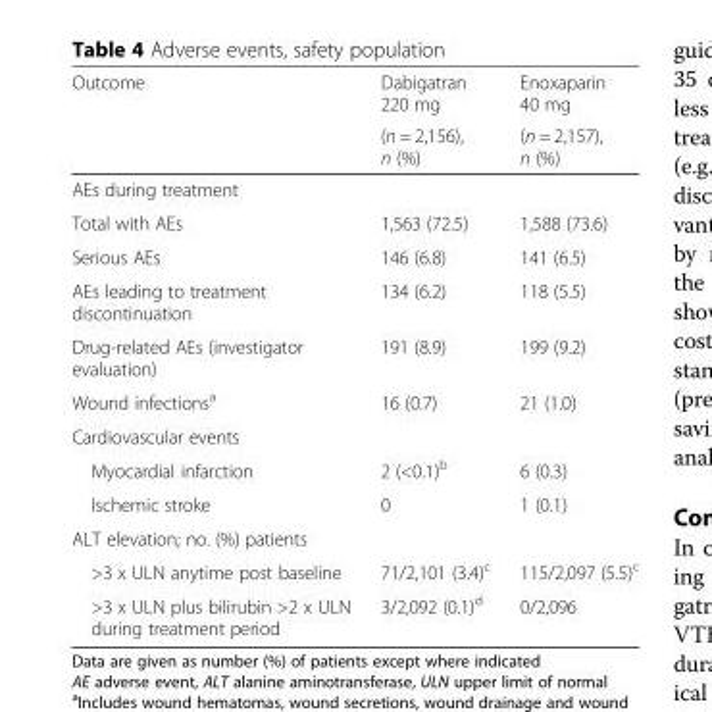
<table><thead><tr><td rowspan="2">Outcome</td><td rowspan="2">Dabigatran 220 mg (n = 2,156), n (%)</td><td rowspan="2">Enoxaparin 40 mg (n = 2,157), n (%)</td></tr><tr></tr></thead><tbody><tr><td colspan="3">AEs during treatment</td></tr><tr><td>Total with AEs</td><td>1,563 (72.5)</td><td>1,588 (73.6)</td></tr><tr><td>Serious AEs</td><td>146 (6.8)</td><td>141 (6.5)</td></tr><tr><td>AEs leading to treatment discontinuation</td><td>134 (6.2)</td><td>118 (5.5)</td></tr><tr><td>Drug-related AEs (investigator evaluation)</td><td>191 (8.9)</td><td>199 (9.2)</td></tr><tr><td>Wound infections<sup>a</sup></td><td>16 (0.7)</td><td>21 (1.0)</td></tr><tr><td colspan="3">Cardiovascular events</td></tr><tr><td>Myocardial infarction</td><td>2 (&lt;0.1)<sup>b</sup></td><td>6 (0.3)</td></tr><tr><td>Ischemic stroke</td><td>0</td><td>1 (0.1)</td></tr><tr><td colspan="3">ALT elevation; no. (%) patients</td></tr><tr><td>&gt;3 x ULN anytime post baseline</td><td>71/2,101 (3.4)<sup>c</sup></td><td>115/2,097 (5.5)<sup>c</sup></td></tr><tr><td>&gt;3 x ULN plus bilirubin &gt;2 x ULN during treatment period</td><td>3/2,092 (0.1)<sup>d</sup></td><td>0/2,096</td></tr></tbody></table>